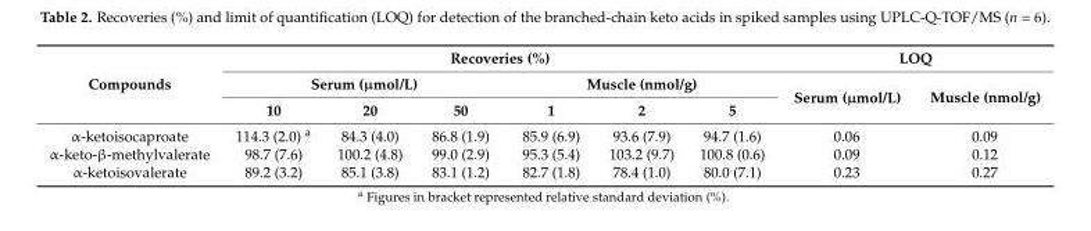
<table><thead><tr><td rowspan="3">Compounds</td><td colspan="6">Recoveries (%)</td><td colspan="2">LOQ</td></tr><tr><td colspan="3">Serum (µmol/L)</td><td colspan="3">Muscle (nmol/g)</td><td rowspan="2">Serum (µmol/L)</td><td rowspan="2">Muscle (nmol/g)</td></tr><tr><td>10</td><td>20</td><td>50</td><td>1</td><td>2</td><td>5</td></tr></thead><tbody><tr><td>α-ketoisocaproate</td><td>114.3 (2.0) <sup>a</sup></td><td>84.3 (4.0)</td><td>86.8 (1.9)</td><td>85.9 (6.9)</td><td>93.6 (7.9)</td><td>94.7 (1.6)</td><td>0.06</td><td>0.09</td></tr><tr><td>α-keto-β-methylvalerate</td><td>98.7 (7.6)</td><td>100.2 (4.8)</td><td>99.0 (2.9)</td><td>95.3 (5.4)</td><td>103.2 (9.7)</td><td>100.8 (0.6)</td><td>0.09</td><td>0.12</td></tr><tr><td>α-ketoisovalerate</td><td>89.2 (3.2)</td><td>85.1 (3.8)</td><td>83.1 (1.2)</td><td>82.7 (1.8)</td><td>78.4 (1.0)</td><td>80.0 (7.1)</td><td>0.23</td><td>0.27</td></tr></tbody></table>